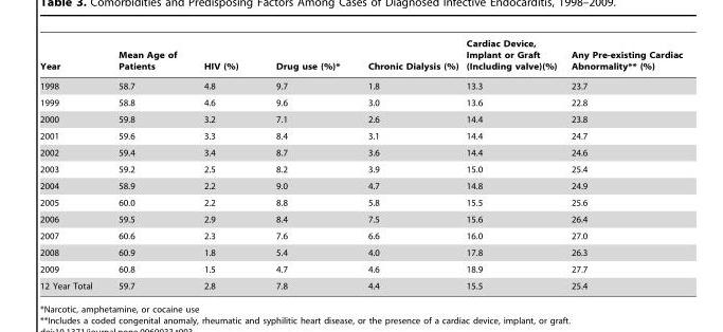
<table><thead><tr><td>Year</td><td>Mean Age of Patients</td><td>HIV (%)</td><td>Drug use (%)*</td><td>Chronic Dialysis (%)</td><td>Cardiac Device, Implant or Graft (Including valve)(%)</td><td>Any Pre-existing Cardiac Abnormality** (%)</td></tr></thead><tbody><tr><td>1998</td><td>58.7</td><td>4.8</td><td>9.7</td><td>1.8</td><td>13.3</td><td>23.7</td></tr><tr><td>1999</td><td>58.8</td><td>4.6</td><td>9.6</td><td>3.0</td><td>13.6</td><td>22.8</td></tr><tr><td>2000</td><td>59.8</td><td>3.2</td><td>7.1</td><td>2.6</td><td>14.4</td><td>23.8</td></tr><tr><td>2001</td><td>59.6</td><td>3.3</td><td>8.4</td><td>3.1</td><td>14.4</td><td>24.7</td></tr><tr><td>2002</td><td>59.4</td><td>3.4</td><td>8.7</td><td>3.6</td><td>14.4</td><td>24.6</td></tr><tr><td>2003</td><td>59.2</td><td>2.5</td><td>8.2</td><td>3.9</td><td>15.0</td><td>25.4</td></tr><tr><td>2004</td><td>58.9</td><td>2.2</td><td>9.0</td><td>4.7</td><td>14.8</td><td>24.9</td></tr><tr><td>2005</td><td>60.0</td><td>2.2</td><td>8.8</td><td>5.8</td><td>15.5</td><td>25.6</td></tr><tr><td>2006</td><td>59.5</td><td>2.9</td><td>8.4</td><td>7.5</td><td>15.6</td><td>26.4</td></tr><tr><td>2007</td><td>60.6</td><td>2.3</td><td>7.6</td><td>6.6</td><td>16.0</td><td>27.0</td></tr><tr><td>2008</td><td>60.9</td><td>1.8</td><td>5.4</td><td>4.0</td><td>17.8</td><td>26.3</td></tr><tr><td>2009</td><td>60.8</td><td>1.5</td><td>4.7</td><td>4.6</td><td>18.9</td><td>27.7</td></tr><tr><td>12 Year Total</td><td>59.7</td><td>2.8</td><td>7.8</td><td>4.4</td><td>15.5</td><td>25.4</td></tr></tbody></table>